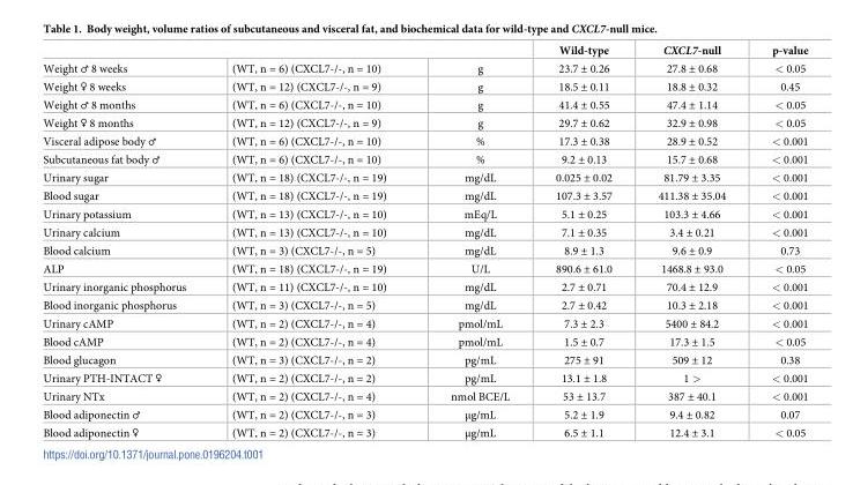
<table><thead><tr><td></td><td></td><td></td><td>Wild-type</td><td>CXCL7-null</td><td>p-value</td></tr></thead><tbody><tr><td>Weight ♂ 8 weeks</td><td>(WT, n = 6) (CXCL7-/-, n = 10)</td><td>g</td><td>23.7 ± 0.26</td><td>27.8 ± 0.68</td><td>&lt; 0.05</td></tr><tr><td>Weight ♀ 8 weeks</td><td>(WT, n = 12) (CXCL7-/-, n = 9)</td><td>g</td><td>18.5 ± 0.11</td><td>18.8 ± 0.32</td><td>0.45</td></tr><tr><td>Weight ♂ 8 months</td><td>(WT, n = 6) (CXCL7-/-, n = 10)</td><td>g</td><td>41.4 ± 0.55</td><td>47.4 ± 1.14</td><td>&lt; 0.05</td></tr><tr><td>Weight ♀ 8 months</td><td>(WT, n = 12) (CXCL7-/-, n = 9)</td><td>g</td><td>29.7 ± 0.62</td><td>32.9 ± 0.98</td><td>&lt; 0.05</td></tr><tr><td>Visceral adipose body ♂</td><td>(WT, n = 6) (CXCL7-/-, n = 10)</td><td>%</td><td>17.3 ± 0.38</td><td>28.9 ± 0.52</td><td>&lt; 0.001</td></tr><tr><td>Subcutaneous fat body ♂</td><td>(WT, n = 6) (CXCL7-/-, n = 10)</td><td>%</td><td>9.2 ± 0.13</td><td>15.7 ± 0.68</td><td>&lt; 0.001</td></tr><tr><td>Urinary sugar</td><td>(WT, n = 18) (CXCL7-/-, n = 19)</td><td>mg/dL</td><td>0.025 ± 0.02</td><td>81.79 ± 3.35</td><td>&lt; 0.001</td></tr><tr><td>Blood sugar</td><td>(WT, n = 18) (CXCL7-/-, n = 19)</td><td>mg/dL</td><td>107.3 ± 3.57</td><td>411.38 ± 35.04</td><td>&lt; 0.001</td></tr><tr><td>Urinary potassium</td><td>(WT, n = 13) (CXCL7-/-, n = 10)</td><td>mEq/L</td><td>5.1 ± 0.25</td><td>103.3 ± 4.66</td><td>&lt; 0.001</td></tr><tr><td>Urinary calcium</td><td>(WT, n = 13) (CXCL7-/-, n = 10)</td><td>mg/dL</td><td>7.1 ± 0.35</td><td>3.4 ± 0.21</td><td>&lt; 0.001</td></tr><tr><td>Blood calcium</td><td>(WT, n = 3) (CXCL7-/-, n = 5)</td><td>mg/dL</td><td>8.9 ± 1.3</td><td>9.6 ± 0.9</td><td>0.73</td></tr><tr><td>ALP</td><td>(WT, n = 18) (CXCL7-/-, n = 19)</td><td>U/L</td><td>890.6 ± 61.0</td><td>1468.8 ± 93.0</td><td>&lt; 0.05</td></tr><tr><td>Urinary inorganic phosphorus</td><td>(WT, n = 11) (CXCL7-/-, n = 10)</td><td>mg/dL</td><td>2.7 ± 0.71</td><td>70.4 ± 12.9</td><td>&lt; 0.001</td></tr><tr><td>Blood inorganic phosphorus</td><td>(WT, n = 3) (CXCL7-/-, n = 5)</td><td>mg/dL</td><td>2.7 ± 0.42</td><td>10.3 ± 2.18</td><td>&lt; 0.001</td></tr><tr><td>Urinary cAMP</td><td>(WT, n = 2) (CXCL7-/-, n = 4)</td><td>pmol/mL</td><td>7.3 ± 2.3</td><td>5400 ± 84.2</td><td>&lt; 0.001</td></tr><tr><td>Blood cAMP</td><td>(WT, n = 2) (CXCL7-/-, n = 4)</td><td>pmol/mL</td><td>1.5 ± 0.7</td><td>17.3 ± 1.5</td><td>&lt; 0.05</td></tr><tr><td>Blood glucagon</td><td>(WT, n = 3) (CXCL7-/-, n = 2)</td><td>pg/mL</td><td>275 ± 91</td><td>509 ± 12</td><td>0.38</td></tr><tr><td>Urinary PTH-INTACT ♀</td><td>(WT, n = 2) (CXCL7-/-, n = 2)</td><td>pg/mL</td><td>13.1 ± 1.8</td><td>1 &gt;</td><td>&lt; 0.001</td></tr><tr><td>Urinary NTx</td><td>(WT, n = 2) (CXCL7-/-, n = 4)</td><td>nmol BCE/L</td><td>53 ± 13.7</td><td>387 ± 40.1</td><td>&lt; 0.001</td></tr><tr><td>Blood adiponectin ♂</td><td>(WT, n = 2) (CXCL7-/-, n = 3)</td><td>μg/mL</td><td>5.2 ± 1.9</td><td>9.4 ± 0.82</td><td>0.07</td></tr><tr><td>Blood adiponectin ♀</td><td>(WT, n = 2) (CXCL7-/-, n = 3)</td><td>μg/mL</td><td>6.5 ± 1.1</td><td>12.4 ± 3.1</td><td>&lt; 0.05</td></tr></tbody></table>